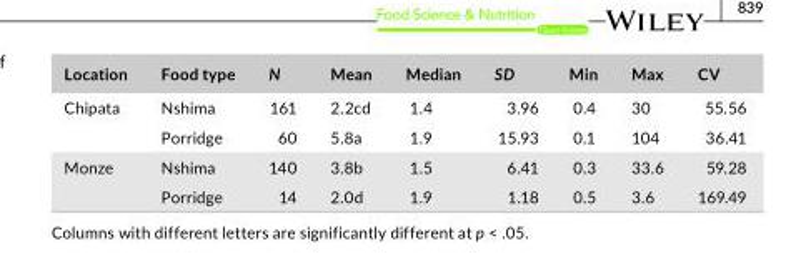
<table><thead><tr><td>Location</td><td>Food type</td><td>N</td><td>Mean</td><td>Median</td><td>SD</td><td>Min</td><td>Max</td><td>CV</td></tr></thead><tbody><tr><td rowspan="2">Chipata</td><td>Nshima</td><td>161</td><td>2.2cd</td><td>1.4</td><td>3.96</td><td>0.4</td><td>30</td><td>55.56</td></tr><tr><td>Porridge</td><td>60</td><td>5.8a</td><td>1.9</td><td>15.93</td><td>0.1</td><td>104</td><td>36.41</td></tr><tr><td rowspan="2">Monze</td><td>Nshima</td><td>140</td><td>3.8b</td><td>1.5</td><td>6.41</td><td>0.3</td><td>33.6</td><td>59.28</td></tr><tr><td>Porridge</td><td>14</td><td>2.0d</td><td>1.9</td><td>1.18</td><td>0.5</td><td>3.6</td><td>169.49</td></tr></tbody></table>